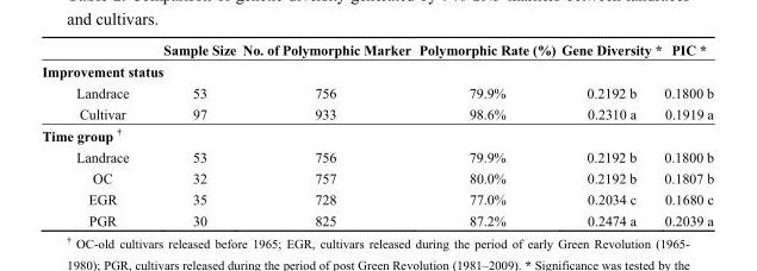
<table><thead><tr><td></td><td>Sample Size</td><td>No. of Polymorphic Marker</td><td>Polymorphic Rate (%)</td><td>Gene Diversity *</td><td>PIC *</td></tr></thead><tbody><tr><td colspan="6">Improvement status</td></tr><tr><td>Landrace</td><td>53</td><td>756</td><td>79.9%</td><td>0.2192 b</td><td>0.1800 b</td></tr><tr><td>Cultivar</td><td>97</td><td>933</td><td>98.6%</td><td>0.2310 a</td><td>0.1919 a</td></tr><tr><td colspan="6">Time group †</td></tr><tr><td>Landrace</td><td>53</td><td>756</td><td>79.9%</td><td>0.2192 b</td><td>0.1800 b</td></tr><tr><td>OC</td><td>32</td><td>757</td><td>80.0%</td><td>0.2192 b</td><td>0.1807 b</td></tr><tr><td>EGR</td><td>35</td><td>728</td><td>77.0%</td><td>0.2034 c</td><td>0.1680 c</td></tr><tr><td>PGR</td><td>30</td><td>825</td><td>87.2%</td><td>0.2474 a</td><td>0.2039 a</td></tr></tbody></table>